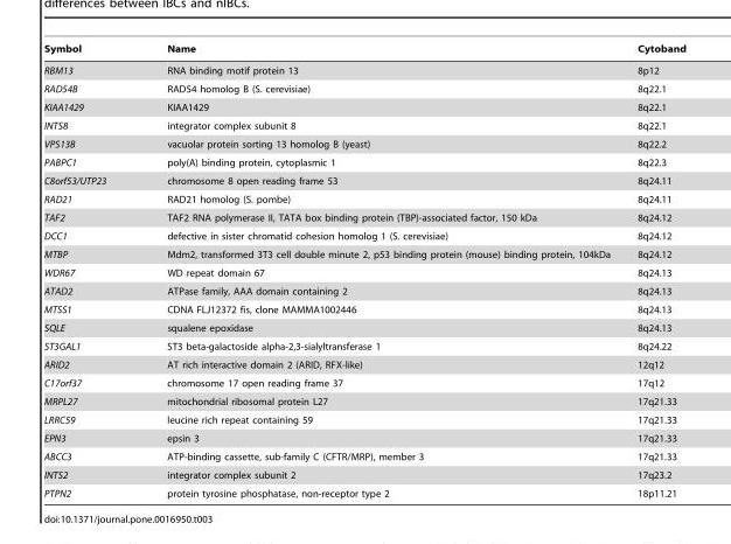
<table><thead><tr><td>Symbol</td><td>Name</td><td>Cytoband</td></tr></thead><tbody><tr><td>RBM13</td><td>RNA binding motif protein 13</td><td>8p12</td></tr><tr><td>RAD54B</td><td>RAD54 homolog B (S. cerevisiae)</td><td>8q22.1</td></tr><tr><td>KIAA1429</td><td>KIAA1429</td><td>8q22.1</td></tr><tr><td>INTS8</td><td>integrator complex subunit 8</td><td>8q22.1</td></tr><tr><td>VPS13B</td><td>vacuolar protein sorting 13 homolog B (yeast)</td><td>8q22.2</td></tr><tr><td>PABPC1</td><td>poly(A) binding protein, cytoplasmic 1</td><td>8q22.3</td></tr><tr><td>C8orf53/UTP23</td><td>chromosome 8 open reading frame 53</td><td>8q24.11</td></tr><tr><td>RAD21</td><td>RAD21 homolog (S. pombe)</td><td>8q24.11</td></tr><tr><td>TAF2</td><td>TAF2 RNA polymerase II, TATA box binding protein (TBP)-associated factor, 150 kDa</td><td>8q24.12</td></tr><tr><td>DCC1</td><td>defective in sister chromatid cohesion homolog 1 (S. cerevisiae)</td><td>8q24.12</td></tr><tr><td>MTBP</td><td>Mdm2, transformed 3T3 cell double minute 2, p53 binding protein (mouse) binding protein, 104kDa</td><td>8q24.12</td></tr><tr><td>WDR67</td><td>WD repeat domain 67</td><td>8q24.13</td></tr><tr><td>ATAD2</td><td>ATPase family, AAA domain containing 2</td><td>8q24.13</td></tr><tr><td>MTSS1</td><td>CDNA FLJ12372 fis, clone MAMMA1002446</td><td>8q24.13</td></tr><tr><td>SQLE</td><td>squalene epoxidase</td><td>8q24.13</td></tr><tr><td>ST3GAL1</td><td>ST3 beta-galactoside alpha-2,3-sialyltransferase 1</td><td>8q24.22</td></tr><tr><td>ARID2</td><td>AT rich interactive domain 2 (ARID, RFX-like)</td><td>12q12</td></tr><tr><td>C17orf37</td><td>chromosome 17 open reading frame 37</td><td>17q12</td></tr><tr><td>MRPL27</td><td>mitochondrial ribosomal protein L27</td><td>17q21.33</td></tr><tr><td>LRRC59</td><td>leucine rich repeat containing 59</td><td>17q21.33</td></tr><tr><td>EPN3</td><td>epsin 3</td><td>17q21.33</td></tr><tr><td>ABCC3</td><td>ATP-binding cassette, sub-family C (CFTR/MRP), member 3</td><td>17q21.33</td></tr><tr><td>INTS2</td><td>integrator complex subunit 2</td><td>17q23.2</td></tr><tr><td>PTPN2</td><td>protein tyrosine phosphatase, non-receptor type 2</td><td>18p11.21</td></tr></tbody></table>